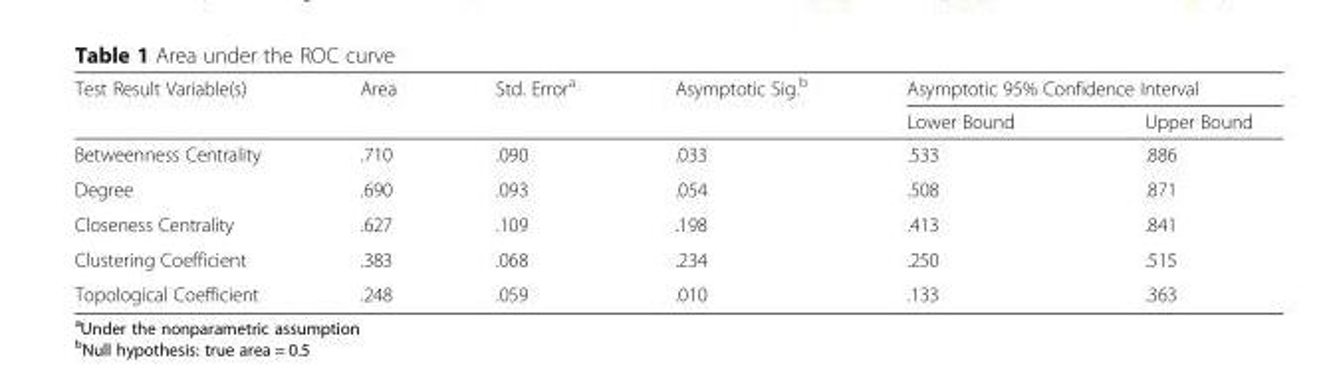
<table><thead><tr><td rowspan="2">Test Result Variable(s)</td><td rowspan="2">Area</td><td rowspan="2">Std. Error<sup>a</sup></td><td rowspan="2">Asymptotic Sig.<sup>b</sup></td><td colspan="2">Asymptotic 95% Confidence Interval</td></tr><tr><td>Lower Bound</td><td>Upper Bound</td></tr></thead><tbody><tr><td>Betweenness Centrality</td><td>.710</td><td>.090</td><td>.033</td><td>.533</td><td>.886</td></tr><tr><td>Degree</td><td>.690</td><td>.093</td><td>.054</td><td>.508</td><td>.871</td></tr><tr><td>Closeness Centrality</td><td>.627</td><td>.109</td><td>.198</td><td>.413</td><td>.841</td></tr><tr><td>Clustering Coefficient</td><td>.383</td><td>.068</td><td>.234</td><td>.250</td><td>.515</td></tr><tr><td>Topological Coefficient</td><td>.248</td><td>.059</td><td>.010</td><td>.133</td><td>.363</td></tr></tbody></table>